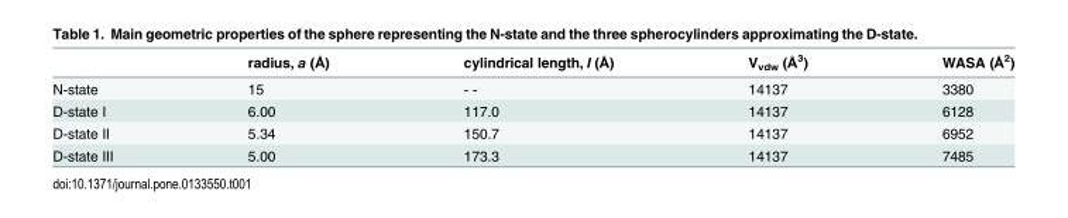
<table><thead><tr><td></td><td>radius, a (Å)</td><td>cylindrical length, l (Å)</td><td>V<sub>vdw</sub> (Å<sup>3</sup>)</td><td>WASA (Å<sup>2</sup>)</td></tr></thead><tbody><tr><td>N-state</td><td>15</td><td>- -</td><td>14137</td><td>3380</td></tr><tr><td>D-state I</td><td>6.00</td><td>117.0</td><td>14137</td><td>6128</td></tr><tr><td>D-state II</td><td>5.34</td><td>150.7</td><td>14137</td><td>6952</td></tr><tr><td>D-state III</td><td>5.00</td><td>173.3</td><td>14137</td><td>7485</td></tr></tbody></table>